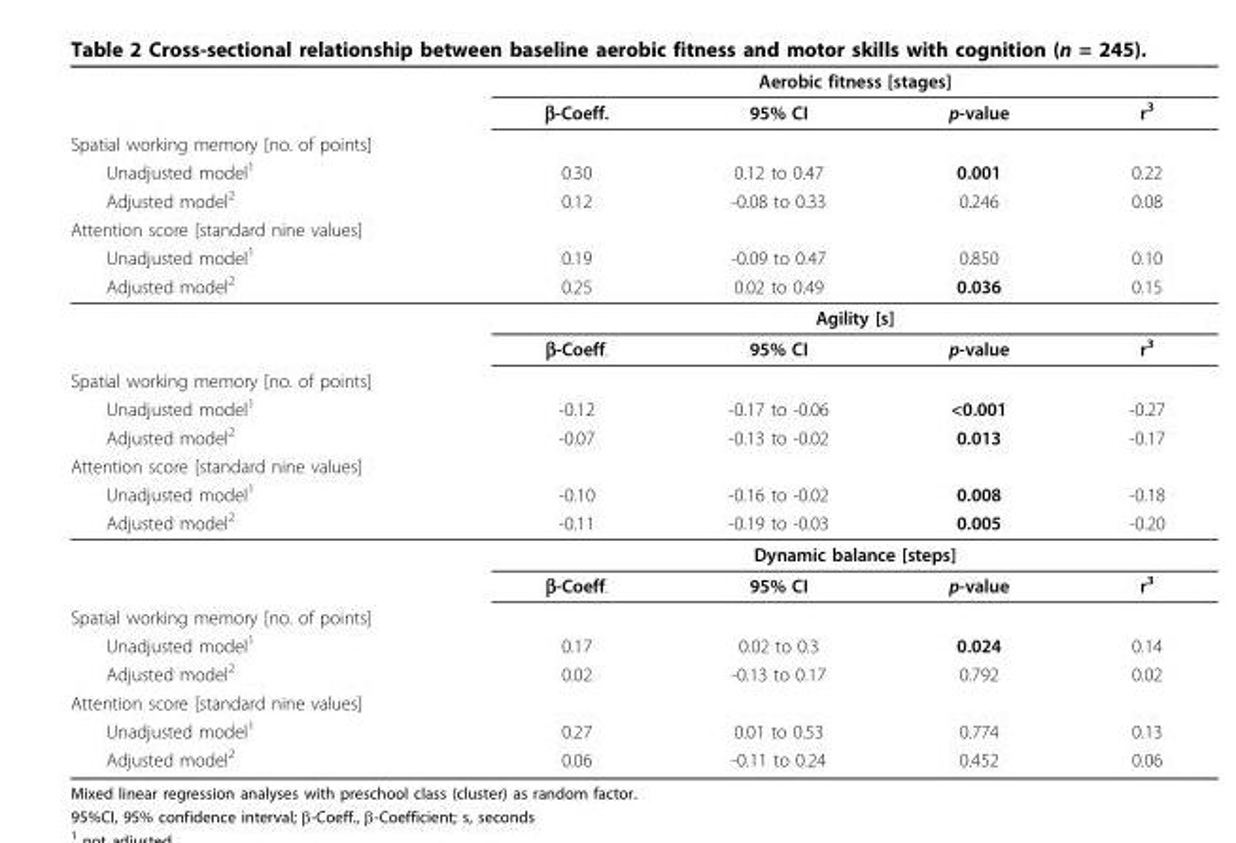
<table><thead><tr><td rowspan="8">Spatial working memory [no. of points] Unadjusted model1 Adjusted model2 Attention score [standard nine values] Unadjusted model1 Adjusted model2</td><td colspan="4">Aerobic fitness [stages]</td></tr><tr><td rowspan="7">β-Coeff. 0.30 0.12 0.19 0.25</td><td rowspan="7">95% CI 0.12 to 0.47 -0.08 to 0.33 -0.09 to 0.47 0.02 to 0.49</td><td rowspan="7">p-value 0.001 0.246 0.850 0.036</td><td rowspan="7">r3 0.22 0.08 0.10 0.15</td></tr><tr></tr><tr></tr><tr></tr><tr></tr><tr></tr><tr></tr></thead><tbody><tr><td></td><td colspan="4">Agility [s]</td></tr><tr><td></td><td>β-Coeff.</td><td>95% CI</td><td>p-value</td><td>r<sup>3</sup></td></tr><tr><td colspan="5">Spatial working memory [no. of points]</td></tr><tr><td>Unadjusted model<sup>1</sup></td><td>-0.12</td><td>-0.17 to -0.06</td><td>&lt;0.001</td><td>-0.27</td></tr><tr><td>Adjusted model<sup>2</sup></td><td>-0.07</td><td>-0.13 to -0.02</td><td>0.013</td><td>-0.17</td></tr><tr><td colspan="5">Attention score [standard nine values]</td></tr><tr><td>Unadjusted model<sup>1</sup></td><td>-0.10</td><td>-0.16 to -0.02</td><td>0.008</td><td>-0.18</td></tr><tr><td rowspan="3">Adjusted model<sup>2</sup></td><td>-0.11</td><td>-0.19 to -0.03</td><td>0.005</td><td>-0.20</td></tr><tr><td colspan="4">Dynamic balance [steps]</td></tr><tr><td>β-Coeff.</td><td>95% CI</td><td>p-value</td><td>r<sup>3</sup></td></tr><tr><td colspan="5">Spatial working memory [no. of points]</td></tr><tr><td>Unadjusted model<sup>1</sup></td><td>0.17</td><td>0.02 to 0.3</td><td>0.024</td><td>0.14</td></tr><tr><td>Adjusted model<sup>2</sup></td><td>0.02</td><td>-0.13 to 0.17</td><td>0.792</td><td>0.02</td></tr><tr><td colspan="5">Attention score [standard nine values]</td></tr><tr><td>Unadjusted model<sup>1</sup></td><td>0.27</td><td>0.01 to 0.53</td><td>0.774</td><td>0.13</td></tr><tr><td>Adjusted model<sup>2</sup></td><td>0.06</td><td>-0.11 to 0.24</td><td>0.452</td><td>0.06</td></tr></tbody></table>